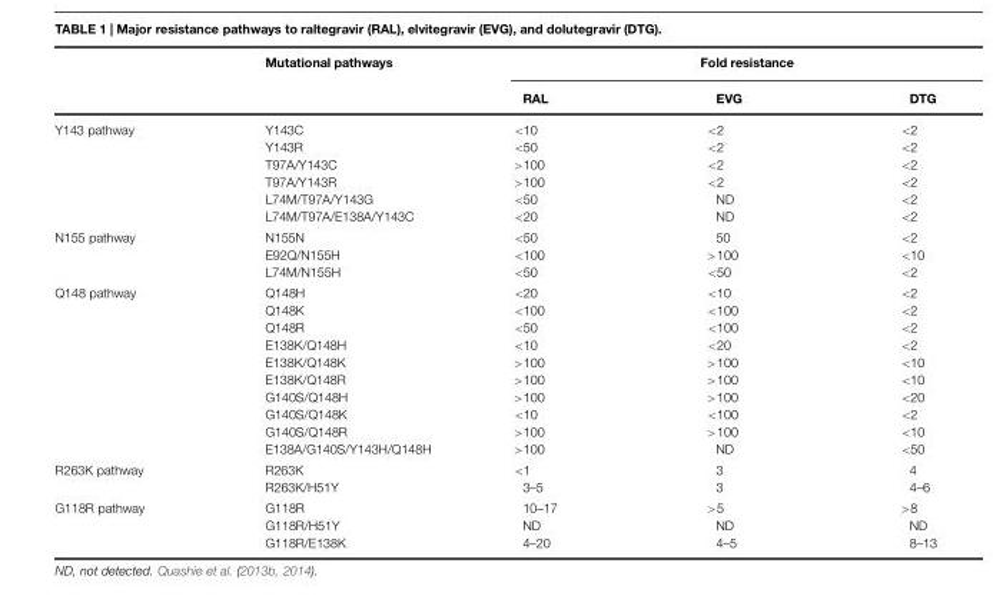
<table><thead><tr><td rowspan="2"></td><td rowspan="2">Mutational pathways</td><td colspan="3">Fold resistance</td></tr><tr><td>RAL</td><td>EVG</td><td>DTG</td></tr></thead><tbody><tr><td>Y143 pathway</td><td>Y143C Y143R T97A/Y143C T97A/Y143R L74M/T97A/Y143G L74M/T97A/E138A/Y143C</td><td>&lt;10 &lt;50 &gt;100 &gt;100 &lt;50 &lt;20</td><td>&lt;2 &lt;2 &lt;2 &lt;2 ND ND</td><td>&lt;2 &lt;2 &lt;2 &lt;2 &lt;2 &lt;2</td></tr><tr><td>N155 pathway</td><td>N155N E92Q/N155H L74M/N155H</td><td>&lt;50 &lt;100 &lt;50</td><td>50 &gt;100 &lt;50</td><td>&lt;2 &lt;10 &lt;2</td></tr><tr><td>Q148 pathway</td><td>Q148H Q148K Q148R E138K/Q148H E138K/Q148K E138K/Q148R G140S/Q148H G140S/Q148K G140S/Q148R E138A/G140S/Y143H/Q148H</td><td>&lt;20 &lt;100 &lt;50 &lt;10 &gt;100 &gt;100 &gt;100 &lt;10 &gt;100 &gt;100</td><td>&lt;10 &lt;100 &lt;100 &lt;20 &gt;100 &gt;100 &gt;100 &lt;100 &gt;100 ND</td><td>&lt;2 &lt;2 &lt;2 &lt;2 &lt;10 &lt;10 &lt;20 &lt;2 &lt;10 &lt;50</td></tr><tr><td>R263K pathway</td><td>R263K R263K/H51Y</td><td>&lt;1 3–5</td><td>3 3</td><td>4 4–6</td></tr><tr><td>G118R pathway</td><td>G118R G118R/H51Y G118R/E138K</td><td>10–17 ND 4–20</td><td>&gt;5 ND 4–5</td><td>&gt;8 ND 8–13</td></tr></tbody></table>